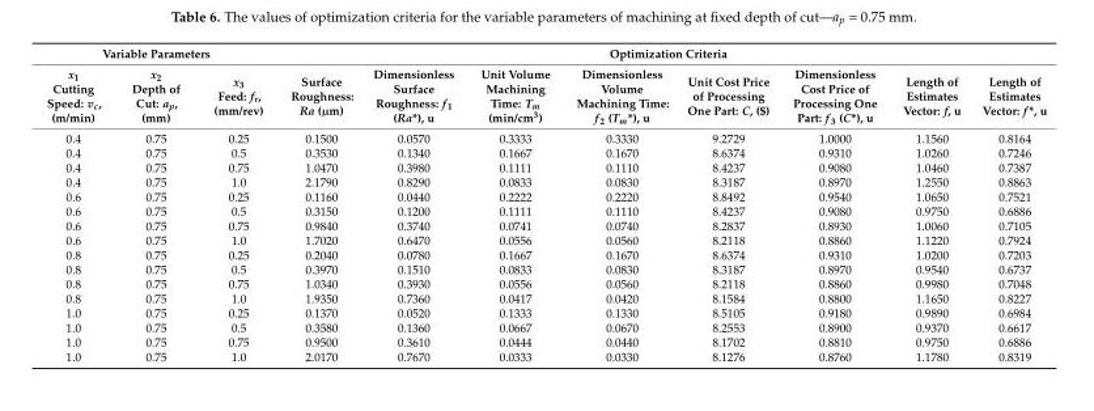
<table><thead><tr><td colspan="3">Variable Parameters</td><td colspan="8">Optimization Criteria</td></tr><tr><td>x<sub>1</sub> Cutting Speed: v<sub>c</sub>, (m/min)</td><td>x<sub>2</sub> Depth of Cut: a<sub>p</sub>, (mm)</td><td>x<sub>3</sub> Feed: f<sub>r</sub>, (mm/rev)</td><td>Surface Roughness: Ra (µm)</td><td>Dimensionless Surface Roughness: f<sub>1</sub> (Ra*), u</td><td>Unit Volume Machining Time: T<sub>m</sub> (min/cm<sup>3</sup>)</td><td>Dimensionless Volume Machining Time: f<sub>2</sub> (T<sub>m</sub>*), u</td><td>Unit Cost Price of Processing One Part: C, ($)</td><td>Dimensionless Cost Price of Processing One Part: f<sub>3</sub> (C*), u</td><td>Length of Estimates Vector: f, u</td><td>Length of Estimates Vector: f*, u</td></tr></thead><tbody><tr><td>0.4</td><td>0.75</td><td>0.25</td><td>0.1500</td><td>0.0570</td><td>0.3333</td><td>0.3330</td><td>9.2729</td><td>1.0000</td><td>1.1560</td><td>0.8164</td></tr><tr><td>0.4</td><td>0.75</td><td>0.5</td><td>0.3530</td><td>0.1340</td><td>0.1667</td><td>0.1670</td><td>8.6374</td><td>0.9310</td><td>1.0260</td><td>0.7246</td></tr><tr><td>0.4</td><td>0.75</td><td>0.75</td><td>1.0470</td><td>0.3980</td><td>0.1111</td><td>0.1110</td><td>8.4237</td><td>0.9080</td><td>1.0460</td><td>0.7387</td></tr><tr><td>0.4</td><td>0.75</td><td>1.0</td><td>2.1790</td><td>0.8290</td><td>0.0833</td><td>0.0830</td><td>8.3187</td><td>0.8970</td><td>1.2550</td><td>0.8863</td></tr><tr><td>0.6</td><td>0.75</td><td>0.25</td><td>0.1160</td><td>0.0440</td><td>0.2222</td><td>0.2220</td><td>8.8492</td><td>0.9540</td><td>1.0650</td><td>0.7521</td></tr><tr><td>0.6</td><td>0.75</td><td>0.5</td><td>0.3150</td><td>0.1200</td><td>0.1111</td><td>0.1110</td><td>8.4237</td><td>0.9080</td><td>0.9750</td><td>0.6886</td></tr><tr><td>0.6</td><td>0.75</td><td>0.75</td><td>0.9840</td><td>0.3740</td><td>0.0741</td><td>0.0740</td><td>8.2837</td><td>0.8930</td><td>1.0060</td><td>0.7105</td></tr><tr><td>0.6</td><td>0.75</td><td>1.0</td><td>1.7020</td><td>0.6470</td><td>0.0556</td><td>0.0560</td><td>8.2118</td><td>0.8860</td><td>1.1220</td><td>0.7924</td></tr><tr><td>0.8</td><td>0.75</td><td>0.25</td><td>0.2040</td><td>0.0780</td><td>0.1667</td><td>0.1670</td><td>8.6374</td><td>0.9310</td><td>1.0200</td><td>0.7203</td></tr><tr><td>0.8</td><td>0.75</td><td>0.5</td><td>0.3970</td><td>0.1510</td><td>0.0833</td><td>0.0830</td><td>8.3187</td><td>0.8970</td><td>0.9540</td><td>0.6737</td></tr><tr><td>0.8</td><td>0.75</td><td>0.75</td><td>1.0340</td><td>0.3930</td><td>0.0556</td><td>0.0560</td><td>8.2118</td><td>0.8860</td><td>0.9980</td><td>0.7048</td></tr><tr><td>0.8</td><td>0.75</td><td>1.0</td><td>1.9350</td><td>0.7360</td><td>0.0417</td><td>0.0420</td><td>8.1584</td><td>0.8800</td><td>1.1650</td><td>0.8227</td></tr><tr><td>1.0</td><td>0.75</td><td>0.25</td><td>0.1370</td><td>0.0520</td><td>0.1333</td><td>0.1330</td><td>8.5105</td><td>0.9180</td><td>0.9890</td><td>0.6984</td></tr><tr><td>1.0</td><td>0.75</td><td>0.5</td><td>0.3580</td><td>0.1360</td><td>0.0667</td><td>0.0670</td><td>8.2553</td><td>0.8900</td><td>0.9370</td><td>0.6617</td></tr><tr><td>1.0</td><td>0.75</td><td>0.75</td><td>0.9500</td><td>0.3610</td><td>0.0444</td><td>0.0440</td><td>8.1702</td><td>0.8810</td><td>0.9750</td><td>0.6886</td></tr><tr><td>1.0</td><td>0.75</td><td>1.0</td><td>2.0170</td><td>0.7670</td><td>0.0333</td><td>0.0330</td><td>8.1276</td><td>0.8760</td><td>1.1780</td><td>0.8319</td></tr></tbody></table>